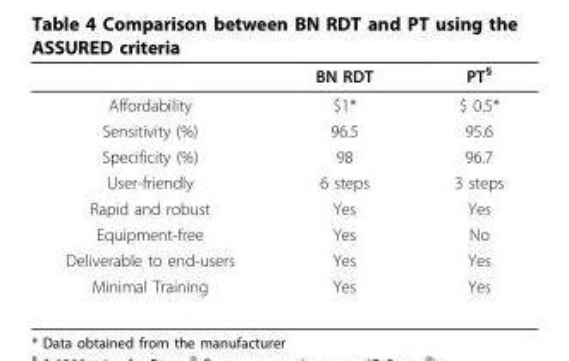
<table><thead><tr><td></td><td>BN RDT</td><td>PT<sup>§</sup></td></tr></thead><tbody><tr><td>Affordability</td><td>$1*</td><td>$ 0.5*</td></tr><tr><td>Sensitivity (%)</td><td>96.5</td><td>95.6</td></tr><tr><td>Specificity (%)</td><td>98</td><td>96.7</td></tr><tr><td>User-friendly</td><td>6 steps</td><td>3 steps</td></tr><tr><td>Rapid and robust</td><td>Yes</td><td>Yes</td></tr><tr><td>Equipment-free</td><td>Yes</td><td>No</td></tr><tr><td>Deliverable to end-users</td><td>Yes</td><td>Yes</td></tr><tr><td>Minimal Training</td><td>Yes</td><td>Yes</td></tr></tbody></table>